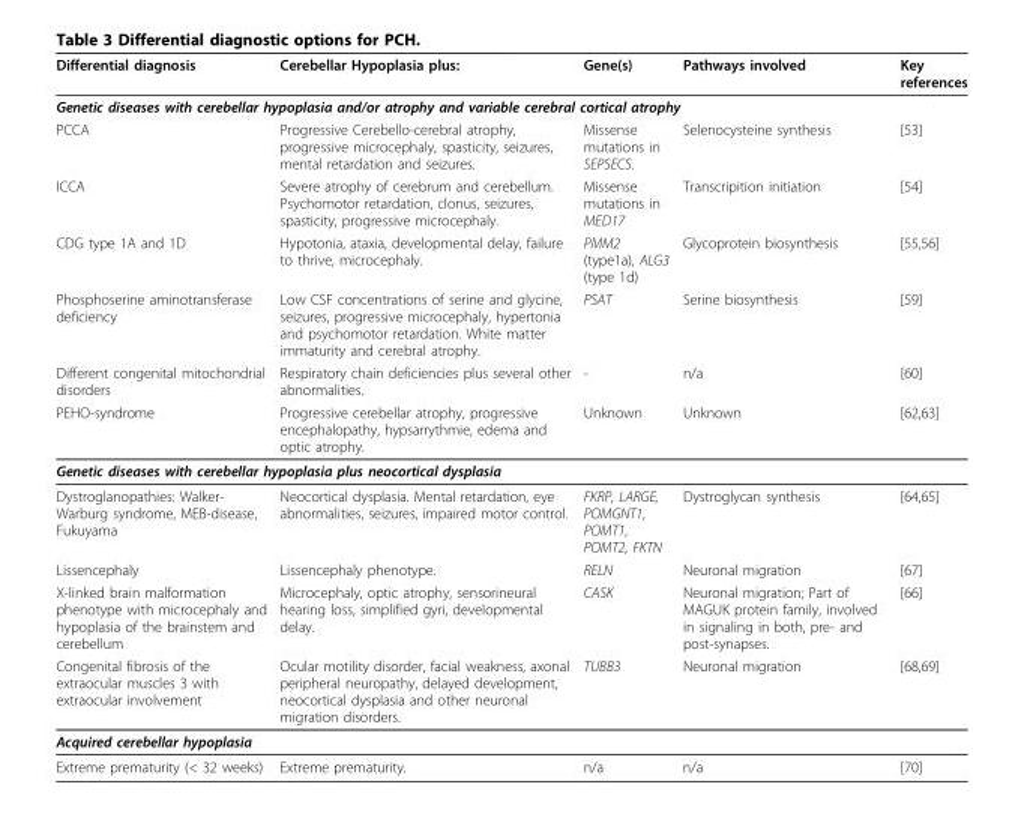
<table><thead><tr><td>Differential diagnosis</td><td>Cerebellar Hypoplasia plus:</td><td>Gene(s)</td><td>Pathways involved</td><td>Key references</td></tr></thead><tbody><tr><td colspan="5">Genetic diseases with cerebellar hypoplasia and/or atrophy and variable cerebral cortical atrophy</td></tr><tr><td>PCCA</td><td>Progressive Cerebello-cerebral atrophy, progressive microcephaly, spasticity, seizures, mental retardation and seizures.</td><td>Missense mutations in SEPSECS.</td><td>Selenocysteine synthesis</td><td>[53]</td></tr><tr><td>ICCA</td><td>Severe atrophy of cerebrum and cerebellum. Psychomotor retardation, clonus, seizures, spasticity, progressive microcephaly.</td><td>Missense mutations in MED17</td><td>Transcripition initiation</td><td>[54]</td></tr><tr><td>CDG type 1A and 1D</td><td>Hypotonia, ataxia, developmental delay, failure to thrive, microcephaly.</td><td>PMM2 (type1a), ALG3 (type 1d)</td><td>Glycoprotein biosynthesis</td><td>[55,56]</td></tr><tr><td>Phosphoserine aminotransferase deficiency</td><td>Low CSF concentrations of serine and glycine, seizures, progressive microcephaly, hypertonia and psychomotor retardation. White matter immaturity and cerebral atrophy.</td><td>PSAT</td><td>Serine biosynthesis</td><td>[59]</td></tr><tr><td>Different congenital mitochondrial disorders</td><td>Respiratory chain deficiencies plus several other abnormalities.</td><td>-</td><td>n/a</td><td>[60]</td></tr><tr><td>PEHO-syndrome</td><td>Progressive cerebellar atrophy, progressive encephalopathy, hypsarrythmie, edema and optic atrophy.</td><td>Unknown</td><td>Unknown</td><td>[62,63]</td></tr><tr><td colspan="5">Genetic diseases with cerebellar hypoplasia plus neocortical dysplasia</td></tr><tr><td>Dystroglanopathies: Walker- Warburg syndrome, MEB-disease, Fukuyama</td><td>Neocortical dysplasia. Mental retardation, eye abnormalities, seizures, impaired motor control.</td><td>FKRP, LARGE, POMGNT1, POMT1, POMT2, FKTN</td><td>Dystroglycan synthesis</td><td>[64,65]</td></tr><tr><td>Lissencephaly</td><td>Lissencephaly phenotype.</td><td>RELN</td><td>Neuronal migration</td><td>[67]</td></tr><tr><td>X-linked brain malformation phenotype with microcephaly and hypoplasia of the brainstem and cerebellum</td><td>Microcephaly, optic atrophy, sensorineural hearing loss, simplified gyri, developmental delay.</td><td>CASK</td><td>Neuronal migration; Part of MAGUK protein family, involved in signaling in both, pre- and post-synapses.</td><td>[66]</td></tr><tr><td>Congenital fibrosis of the extraocular muscles 3 with extraocular involvement</td><td>Ocular motility disorder, facial weakness, axonal peripheral neuropathy, delayed development, neocortical dysplasia and other neuronal migration disorders.</td><td>TUBB3</td><td>Neuronal migration</td><td>[68,69]</td></tr><tr><td colspan="5">Acquired cerebellar hypoplasia</td></tr><tr><td>Extreme prematurity (&lt; 32 weeks)</td><td>Extreme prematurity.</td><td>n/a</td><td>n/a</td><td>[70]</td></tr></tbody></table>